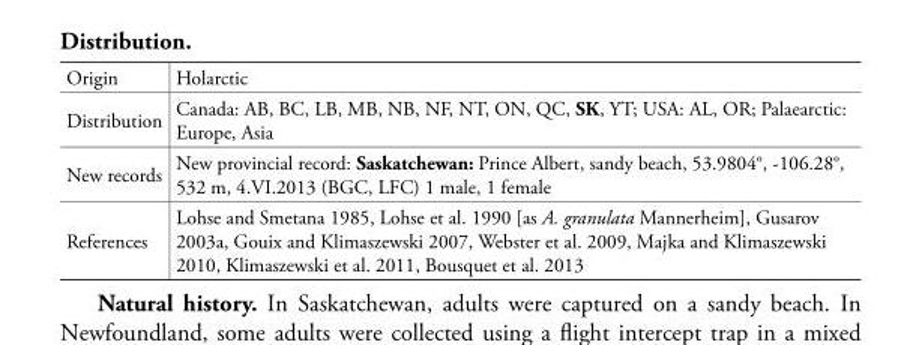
<table><tbody><tr><td>Origin</td><td>Holarctic</td></tr><tr><td>Distribution</td><td>Canada: AB, BC, LB, MB, NB, NF, NT, ON, QC, SK, YT; USA: AL, OR; Palaearctic: Europe, Asia</td></tr><tr><td>New records</td><td>New provincial record: Saskatchewan: Prince Albert, sandy beach, 53.9804°, -106.28°, 532 m, 4.VI.2013 (BGC, LFC) 1 male, 1 female</td></tr><tr><td>References</td><td>Lohse and Smetana 1985, Lohse et al. 1990 [as A. granulata Mannerheim], Gusarov 2003a, Gouix and Klimaszewski 2007, Webster et al. 2009, Majka and Klimaszewski 2010, Klimaszewski et al. 2011, Bousquet et al. 2013</td></tr></tbody></table>